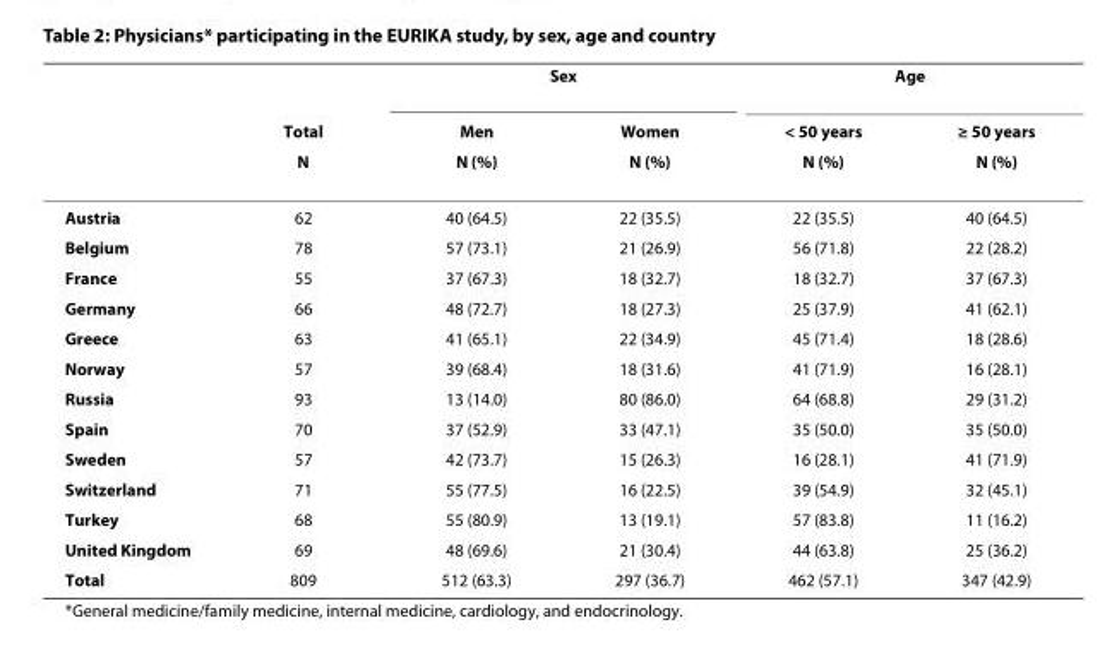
<table><thead><tr><td rowspan="3"></td><td rowspan="3">Total N</td><td colspan="2">Sex</td><td colspan="2">Age</td></tr><tr><td rowspan="2">Men N (%)</td><td rowspan="2">Women N (%)</td><td rowspan="2">&lt; 50 years N (%)</td><td rowspan="2">≥ 50 years N (%)</td></tr><tr></tr></thead><tbody><tr><td>Austria</td><td>62</td><td>40 (64.5)</td><td>22 (35.5)</td><td>22 (35.5)</td><td>40 (64.5)</td></tr><tr><td>Belgium</td><td>78</td><td>57 (73.1)</td><td>21 (26.9)</td><td>56 (71.8)</td><td>22 (28.2)</td></tr><tr><td>France</td><td>55</td><td>37 (67.3)</td><td>18 (32.7)</td><td>18 (32.7)</td><td>37 (67.3)</td></tr><tr><td>Germany</td><td>66</td><td>48 (72.7)</td><td>18 (27.3)</td><td>25 (37.9)</td><td>41 (62.1)</td></tr><tr><td>Greece</td><td>63</td><td>41 (65.1)</td><td>22 (34.9)</td><td>45 (71.4)</td><td>18 (28.6)</td></tr><tr><td>Norway</td><td>57</td><td>39 (68.4)</td><td>18 (31.6)</td><td>41 (71.9)</td><td>16 (28.1)</td></tr><tr><td>Russia</td><td>93</td><td>13 (14.0)</td><td>80 (86.0)</td><td>64 (68.8)</td><td>29 (31.2)</td></tr><tr><td>Spain</td><td>70</td><td>37 (52.9)</td><td>33 (47.1)</td><td>35 (50.0)</td><td>35 (50.0)</td></tr><tr><td>Sweden</td><td>57</td><td>42 (73.7)</td><td>15 (26.3)</td><td>16 (28.1)</td><td>41 (71.9)</td></tr><tr><td>Switzerland</td><td>71</td><td>55 (77.5)</td><td>16 (22.5)</td><td>39 (54.9)</td><td>32 (45.1)</td></tr><tr><td>Turkey</td><td>68</td><td>55 (80.9)</td><td>13 (19.1)</td><td>57 (83.8)</td><td>11 (16.2)</td></tr><tr><td>United Kingdom</td><td>69</td><td>48 (69.6)</td><td>21 (30.4)</td><td>44 (63.8)</td><td>25 (36.2)</td></tr><tr><td>Total</td><td>809</td><td>512 (63.3)</td><td>297 (36.7)</td><td>462 (57.1)</td><td>347 (42.9)</td></tr></tbody></table>